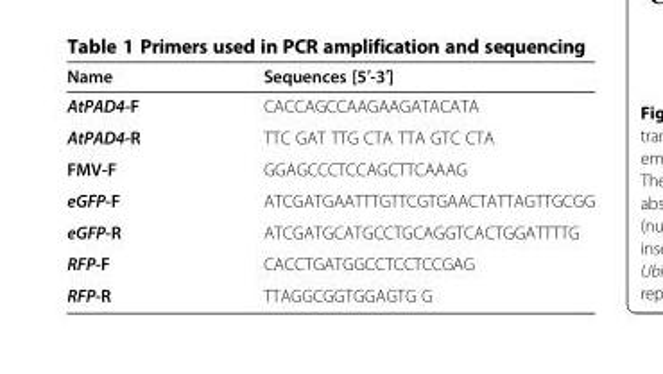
<table><thead><tr><td>Name</td><td>Sequences [5′-3′]</td></tr></thead><tbody><tr><td>AtPAD4-F</td><td>CACCAGCCAAGAAGATACATA</td></tr><tr><td>AtPAD4-R</td><td>TTC GAT TTG CTA TTA GTC CTA</td></tr><tr><td>FMV-F</td><td>GGAGCCCTCCAGCTTCAAAG</td></tr><tr><td>eGFP-F</td><td>ATCGATGAATTTGTTCGTGAACTATTAGTTGCGG</td></tr><tr><td>eGFP-R</td><td>ATCGATGCATGCCTGCAGGTCACTGGATTTTG</td></tr><tr><td>RFP-F</td><td>CACCTGATGGCCTCCTCCGAG</td></tr><tr><td>RFP-R</td><td>TTAGGCGGTGGAGTG G</td></tr></tbody></table>